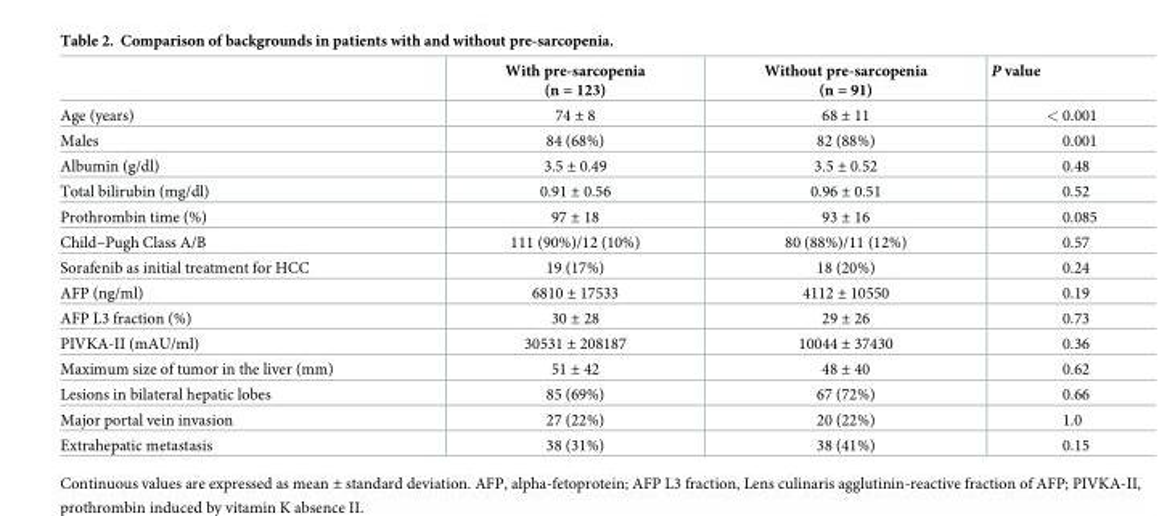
<table><thead><tr><td></td><td>With pre-sarcopenia (n = 123)</td><td>Without pre-sarcopenia (n = 91)</td><td>P value</td></tr></thead><tbody><tr><td>Age (years)</td><td>74 ± 8</td><td>68 ± 11</td><td>&lt; 0.001</td></tr><tr><td>Males</td><td>84 (68%)</td><td>82 (88%)</td><td>0.001</td></tr><tr><td>Albumin (g/dl)</td><td>3.5 ± 0.49</td><td>3.5 ± 0.52</td><td>0.48</td></tr><tr><td>Total bilirubin (mg/dl)</td><td>0.91 ± 0.56</td><td>0.96 ± 0.51</td><td>0.52</td></tr><tr><td>Prothrombin time (%)</td><td>97 ± 18</td><td>93 ± 16</td><td>0.085</td></tr><tr><td>Child–Pugh Class A/B</td><td>111 (90%)/12 (10%)</td><td>80 (88%)/11 (12%)</td><td>0.57</td></tr><tr><td>Sorafenib as initial treatment for HCC</td><td>19 (17%)</td><td>18 (20%)</td><td>0.24</td></tr><tr><td>AFP (ng/ml)</td><td>6810 ± 17533</td><td>4112 ± 10550</td><td>0.19</td></tr><tr><td>AFP L3 fraction (%)</td><td>30 ± 28</td><td>29 ± 26</td><td>0.73</td></tr><tr><td>PIVKA-II (mAU/ml)</td><td>30531 ± 208187</td><td>10044 ± 37430</td><td>0.36</td></tr><tr><td>Maximum size of tumor in the liver (mm)</td><td>51 ± 42</td><td>48 ± 40</td><td>0.62</td></tr><tr><td>Lesions in bilateral hepatic lobes</td><td>85 (69%)</td><td>67 (72%)</td><td>0.66</td></tr><tr><td>Major portal vein invasion</td><td>27 (22%)</td><td>20 (22%)</td><td>1.0</td></tr><tr><td>Extrahepatic metastasis</td><td>38 (31%)</td><td>38 (41%)</td><td>0.15</td></tr></tbody></table>